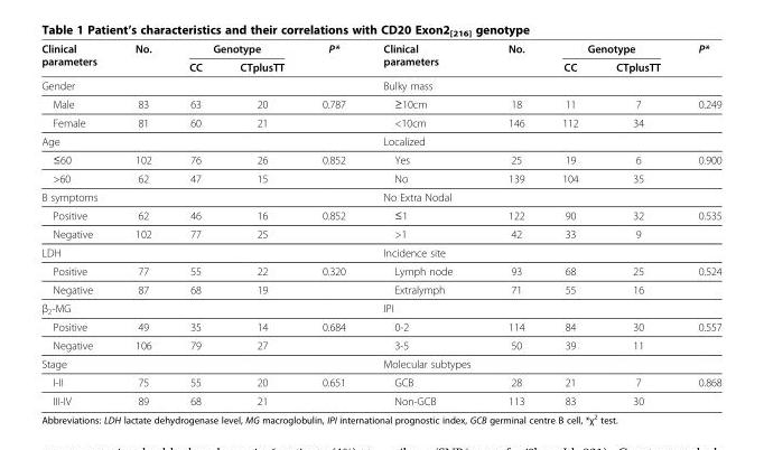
<table><thead><tr><td rowspan="2">Clinical parameters</td><td rowspan="2">No.</td><td colspan="2">Genotype</td><td rowspan="2">P*</td><td rowspan="2">Clinical parameters</td><td rowspan="2">No.</td><td colspan="2">Genotype</td><td rowspan="2">P*</td></tr><tr><td>CC</td><td>CTplusTT</td><td>CC</td><td>CTplusTT</td></tr></thead><tbody><tr><td>Gender</td><td></td><td></td><td></td><td></td><td>Bulky mass</td><td></td><td></td><td></td><td></td></tr><tr><td>Male</td><td>83</td><td>63</td><td>20</td><td>0.787</td><td>≥10cm</td><td>18</td><td>11</td><td>7</td><td>0.249</td></tr><tr><td>Female</td><td>81</td><td>60</td><td>21</td><td></td><td>&lt;10cm</td><td>146</td><td>112</td><td>34</td><td></td></tr><tr><td>Age</td><td></td><td></td><td></td><td></td><td>Localized</td><td></td><td></td><td></td><td></td></tr><tr><td>≤60</td><td>102</td><td>76</td><td>26</td><td>0.852</td><td>Yes</td><td>25</td><td>19</td><td>6</td><td>0.900</td></tr><tr><td>&gt;60</td><td>62</td><td>47</td><td>15</td><td></td><td>No</td><td>139</td><td>104</td><td>35</td><td></td></tr><tr><td>B symptoms</td><td></td><td></td><td></td><td></td><td>No Extra Nodal</td><td></td><td></td><td></td><td></td></tr><tr><td>Positive</td><td>62</td><td>46</td><td>16</td><td>0.852</td><td>≤1</td><td>122</td><td>90</td><td>32</td><td>0.535</td></tr><tr><td>Negative</td><td>102</td><td>77</td><td>25</td><td></td><td>&gt;1</td><td>42</td><td>33</td><td>9</td><td></td></tr><tr><td>LDH</td><td></td><td></td><td></td><td></td><td>Incidence site</td><td></td><td></td><td></td><td></td></tr><tr><td>Positive</td><td>77</td><td>55</td><td>22</td><td>0.320</td><td>Lymph node</td><td>93</td><td>68</td><td>25</td><td>0.524</td></tr><tr><td>Negative</td><td>87</td><td>68</td><td>19</td><td></td><td>Extralymph</td><td>71</td><td>55</td><td>16</td><td></td></tr><tr><td>β<sub>2</sub>-MG</td><td></td><td></td><td></td><td></td><td>IPI</td><td></td><td></td><td></td><td></td></tr><tr><td>Positive</td><td>49</td><td>35</td><td>14</td><td>0.684</td><td>0-2</td><td>114</td><td>84</td><td>30</td><td>0.557</td></tr><tr><td>Negative</td><td>106</td><td>79</td><td>27</td><td></td><td>3-5</td><td>50</td><td>39</td><td>11</td><td></td></tr><tr><td>Stage</td><td></td><td></td><td></td><td></td><td>Molecular subtypes</td><td></td><td></td><td></td><td></td></tr><tr><td>I-II</td><td>75</td><td>55</td><td>20</td><td>0.651</td><td>GCB</td><td>28</td><td>21</td><td>7</td><td>0.868</td></tr><tr><td>III-IV</td><td>89</td><td>68</td><td>21</td><td></td><td>Non-GCB</td><td>113</td><td>83</td><td>30</td><td></td></tr></tbody></table>